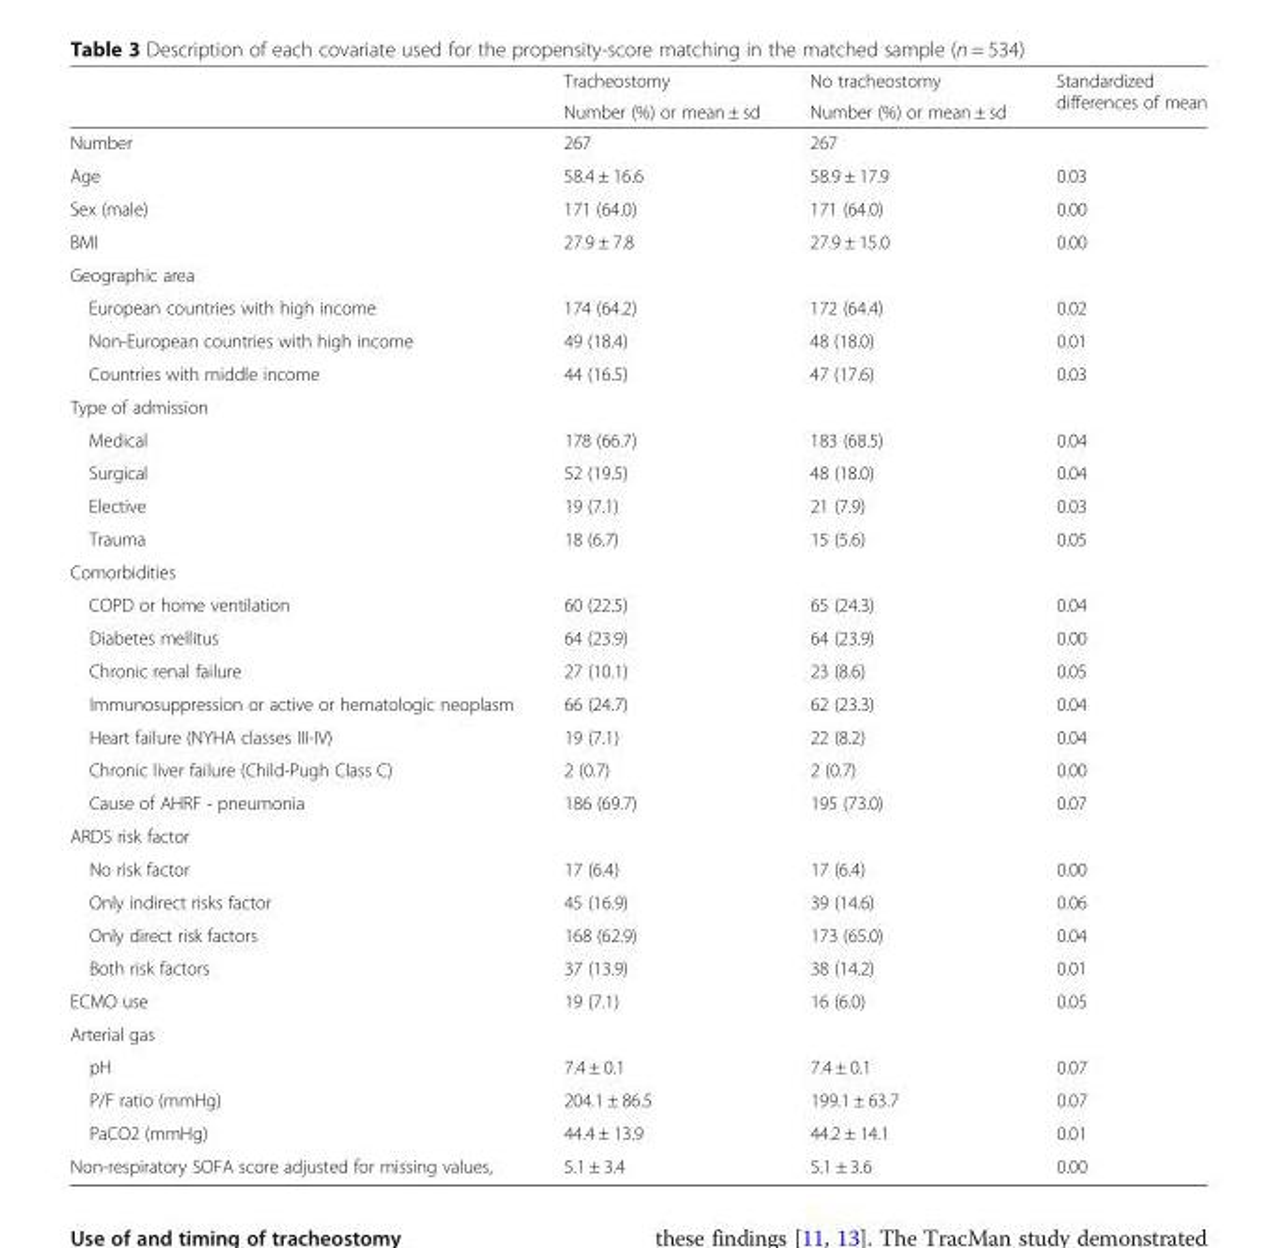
<table><thead><tr><td rowspan="2"></td><td rowspan="2">Tracheostomy Number (%) or mean ± sd</td><td rowspan="2">No tracheostomy Number (%) or mean ± sd</td><td rowspan="2">Standardized differences of mean</td></tr><tr></tr></thead><tbody><tr><td>Number</td><td>267</td><td>267</td><td></td></tr><tr><td>Age</td><td>58.4 ± 16.6</td><td>58.9 ± 17.9</td><td>0.03</td></tr><tr><td>Sex (male)</td><td>171 (64.0)</td><td>171 (64.0)</td><td>0.00</td></tr><tr><td>BMI</td><td>27.9 ± 7.8</td><td>27.9 ± 15.0</td><td>0.00</td></tr><tr><td colspan="4">Geographic area</td></tr><tr><td>European countries with high income</td><td>174 (64.2)</td><td>172 (64.4)</td><td>0.02</td></tr><tr><td>Non-European countries with high income</td><td>49 (18.4)</td><td>48 (18.0)</td><td>0.01</td></tr><tr><td>Countries with middle income</td><td>44 (16.5)</td><td>47 (17.6)</td><td>0.03</td></tr><tr><td colspan="4">Type of admission</td></tr><tr><td>Medical</td><td>178 (66.7)</td><td>183 (68.5)</td><td>0.04</td></tr><tr><td>Surgical</td><td>52 (19.5)</td><td>48 (18.0)</td><td>0.04</td></tr><tr><td>Elective</td><td>19 (7.1)</td><td>21 (7.9)</td><td>0.03</td></tr><tr><td>Trauma</td><td>18 (6.7)</td><td>15 (5.6)</td><td>0.05</td></tr><tr><td colspan="4">Comorbidities</td></tr><tr><td>COPD or home ventilation</td><td>60 (22.5)</td><td>65 (24.3)</td><td>0.04</td></tr><tr><td>Diabetes mellitus</td><td>64 (23.9)</td><td>64 (23.9)</td><td>0.00</td></tr><tr><td>Chronic renal failure</td><td>27 (10.1)</td><td>23 (8.6)</td><td>0.05</td></tr><tr><td>Immunosuppression or active or hematologic neoplasm</td><td>66 (24.7)</td><td>62 (23.3)</td><td>0.04</td></tr><tr><td>Heart failure (NYHA classes III-IV)</td><td>19 (7.1)</td><td>22 (8.2)</td><td>0.04</td></tr><tr><td>Chronic liver failure (Child-Pugh Class C)</td><td>2 (0.7)</td><td>2 (0.7)</td><td>0.00</td></tr><tr><td>Cause of AHRF - pneumonia</td><td>186 (69.7)</td><td>195 (73.0)</td><td>0.07</td></tr><tr><td colspan="4">ARDS risk factor</td></tr><tr><td>No risk factor</td><td>17 (6.4)</td><td>17 (6.4)</td><td>0.00</td></tr><tr><td>Only indirect risks factor</td><td>45 (16.9)</td><td>39 (14.6)</td><td>0.06</td></tr><tr><td>Only direct risk factors</td><td>168 (62.9)</td><td>173 (65.0)</td><td>0.04</td></tr><tr><td>Both risk factors</td><td>37 (13.9)</td><td>38 (14.2)</td><td>0.01</td></tr><tr><td>ECMO use</td><td>19 (7.1)</td><td>16 (6.0)</td><td>0.05</td></tr><tr><td colspan="4">Arterial gas</td></tr><tr><td>pH</td><td>7.4 ± 0.1</td><td>7.4 ± 0.1</td><td>0.07</td></tr><tr><td>P/F ratio (mmHg)</td><td>204.1 ± 86.5</td><td>199.1 ± 63.7</td><td>0.07</td></tr><tr><td>PaCO2 (mmHg)</td><td>44.4 ± 13.9</td><td>44.2 ± 14.1</td><td>0.01</td></tr><tr><td>Non-respiratory SOFA score adjusted for missing values,</td><td>5.1 ± 3.4</td><td>5.1 ± 3.6</td><td>0.00</td></tr></tbody></table>